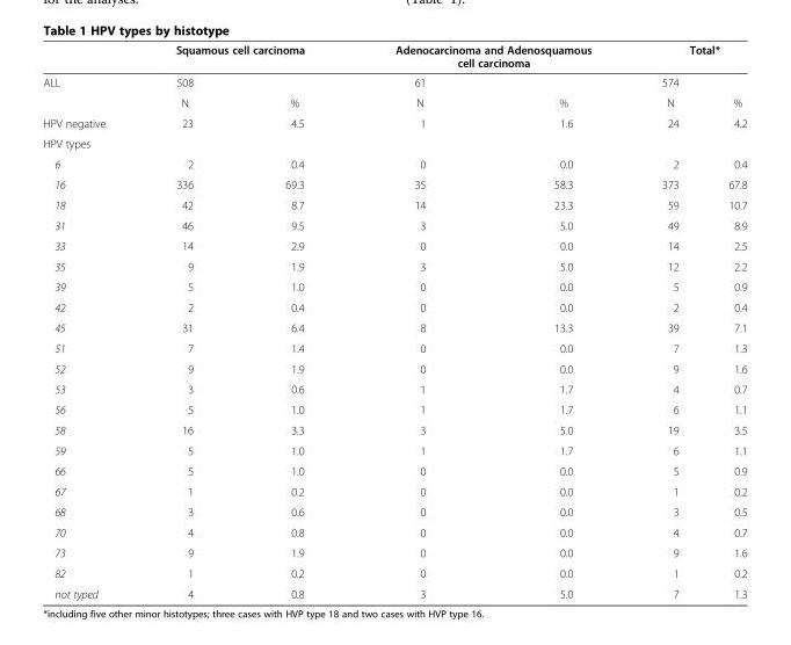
<table><thead><tr><td rowspan="2">ALL</td><td colspan="2">Squamous cell carcinoma</td><td colspan="2">Adenocarcinoma and Adenosquamous cell carcinoma</td><td colspan="2">Total*</td></tr><tr><td>508</td><td></td><td>61</td><td></td><td>574</td><td></td></tr></thead><tbody><tr><td></td><td>N</td><td>%</td><td>N</td><td>%</td><td>N</td><td>%</td></tr><tr><td>HPV negative</td><td>23</td><td>4.5</td><td>1</td><td>1.6</td><td>24</td><td>4.2</td></tr><tr><td colspan="7">HPV types</td></tr><tr><td>6</td><td>2</td><td>0.4</td><td>0</td><td>0.0</td><td>2</td><td>0.4</td></tr><tr><td>16</td><td>336</td><td>69.3</td><td>35</td><td>58.3</td><td>373</td><td>67.8</td></tr><tr><td>18</td><td>42</td><td>8.7</td><td>14</td><td>23.3</td><td>59</td><td>10.7</td></tr><tr><td>31</td><td>46</td><td>9.5</td><td>3</td><td>5.0</td><td>49</td><td>8.9</td></tr><tr><td>33</td><td>14</td><td>2.9</td><td>0</td><td>0.0</td><td>14</td><td>2.5</td></tr><tr><td>35</td><td>9</td><td>1.9</td><td>3</td><td>5.0</td><td>12</td><td>2.2</td></tr><tr><td>39</td><td>5</td><td>1.0</td><td>0</td><td>0.0</td><td>5</td><td>0.9</td></tr><tr><td>42</td><td>2</td><td>0.4</td><td>0</td><td>0.0</td><td>2</td><td>0.4</td></tr><tr><td>45</td><td>31</td><td>6.4</td><td>8</td><td>13.3</td><td>39</td><td>7.1</td></tr><tr><td>51</td><td>7</td><td>1.4</td><td>0</td><td>0.0</td><td>7</td><td>1.3</td></tr><tr><td>52</td><td>9</td><td>1.9</td><td>0</td><td>0.0</td><td>9</td><td>1.6</td></tr><tr><td>53</td><td>3</td><td>0.6</td><td>1</td><td>1.7</td><td>4</td><td>0.7</td></tr><tr><td>56</td><td>5</td><td>1.0</td><td>1</td><td>1.7</td><td>6</td><td>1.1</td></tr><tr><td>58</td><td>16</td><td>3.3</td><td>3</td><td>5.0</td><td>19</td><td>3.5</td></tr><tr><td>59</td><td>5</td><td>1.0</td><td>1</td><td>1.7</td><td>6</td><td>1.1</td></tr><tr><td>66</td><td>5</td><td>1.0</td><td>0</td><td>0.0</td><td>5</td><td>0.9</td></tr><tr><td>67</td><td>1</td><td>0.2</td><td>0</td><td>0.0</td><td>1</td><td>0.2</td></tr><tr><td>68</td><td>3</td><td>0.6</td><td>0</td><td>0.0</td><td>3</td><td>0.5</td></tr><tr><td>70</td><td>4</td><td>0.8</td><td>0</td><td>0.0</td><td>4</td><td>0.7</td></tr><tr><td>73</td><td>9</td><td>1.9</td><td>0</td><td>0.0</td><td>9</td><td>1.6</td></tr><tr><td>82</td><td>1</td><td>0.2</td><td>0</td><td>0.0</td><td>1</td><td>0.2</td></tr><tr><td>not typed</td><td>4</td><td>0.8</td><td>3</td><td>5.0</td><td>7</td><td>1.3</td></tr></tbody></table>